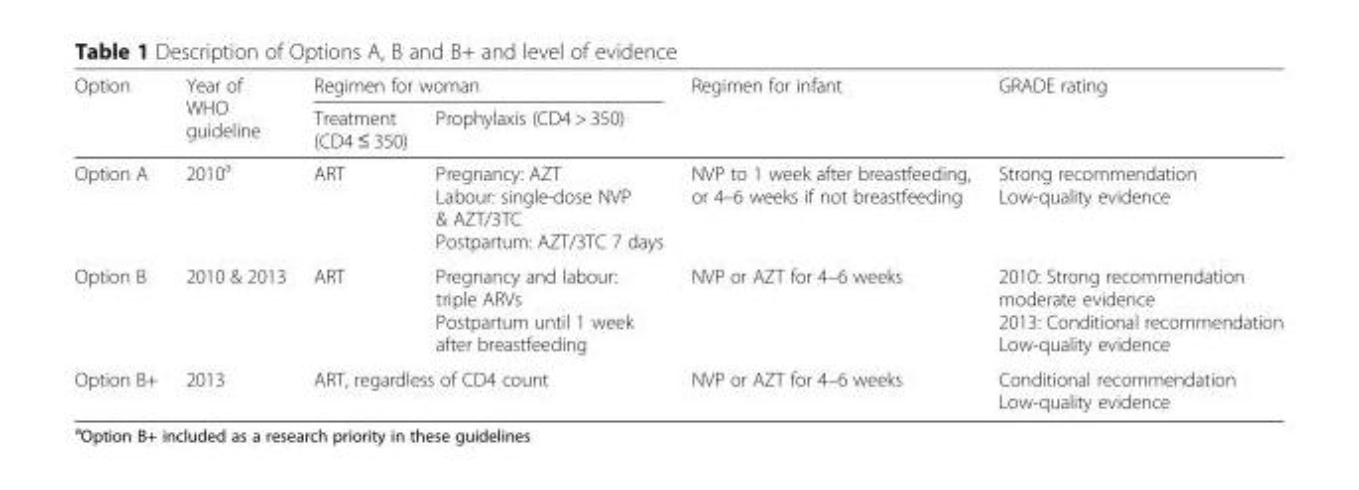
<table><thead><tr><td rowspan="2">Option</td><td rowspan="2">Year of WHO guideline</td><td colspan="2">Regimen for woman</td><td rowspan="2">Regimen for infant</td><td rowspan="2">GRADE rating</td></tr><tr><td>Treatment (CD4 ≤ 350)</td><td>Prophylaxis (CD4 &gt; 350)</td></tr></thead><tbody><tr><td>Option A</td><td>2010<sup>a</sup></td><td>ART</td><td>Pregnancy: AZT Labour: single-dose NVP &amp; AZT/3TC Postpartum: AZT/3TC 7 days</td><td>NVP to 1 week after breastfeeding, or 4–6 weeks if not breastfeeding</td><td>Strong recommendation Low-quality evidence</td></tr><tr><td>Option B</td><td>2010 &amp; 2013</td><td>ART</td><td>Pregnancy and labour: triple ARVs Postpartum until 1 week after breastfeeding</td><td>NVP or AZT for 4–6 weeks</td><td>2010: Strong recommendation moderate evidence 2013: Conditional recommendation Low-quality evidence</td></tr><tr><td>Option B+</td><td>2013</td><td colspan="2">ART, regardless of CD4 count</td><td>NVP or AZT for 4–6 weeks</td><td>Conditional recommendation Low-quality evidence</td></tr></tbody></table>